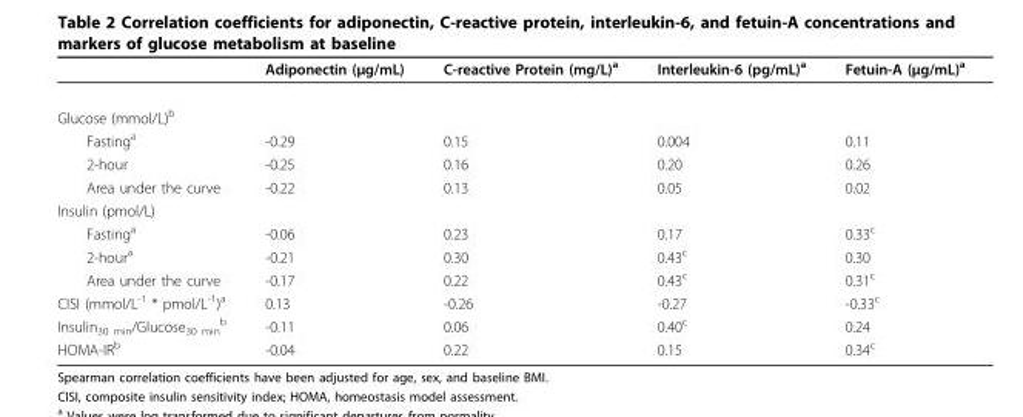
<table><thead><tr><td></td><td>Adiponectin (μg/mL)</td><td>C-reactive Protein (mg/L)<sup>a</sup></td><td>Interleukin-6 (pg/mL)<sup>a</sup></td><td>Fetuin-A (μg/mL)<sup>a</sup></td></tr></thead><tbody><tr><td colspan="5">Glucose (mmol/L)<sup>b</sup></td></tr><tr><td>Fasting<sup>a</sup></td><td>-0.29</td><td>0.15</td><td>0.004</td><td>0.11</td></tr><tr><td>2-hour</td><td>-0.25</td><td>0.16</td><td>0.20</td><td>0.26</td></tr><tr><td>Area under the curve</td><td>-0.22</td><td>0.13</td><td>0.05</td><td>0.02</td></tr><tr><td colspan="5">Insulin (pmol/L)</td></tr><tr><td>Fasting<sup>a</sup></td><td>-0.06</td><td>0.23</td><td>0.17</td><td>0.33<sup>c</sup></td></tr><tr><td>2-hour<sup>a</sup></td><td>-0.21</td><td>0.30</td><td>0.43<sup>c</sup></td><td>0.30</td></tr><tr><td>Area under the curve</td><td>-0.17</td><td>0.22</td><td>0.43<sup>c</sup></td><td>0.31<sup>c</sup></td></tr><tr><td>CISI (mmol/L<sup>-1</sup> * pmol/L<sup>-1</sup>)<sup>a</sup></td><td>0.13</td><td>-0.26</td><td>-0.27</td><td>-0.33<sup>c</sup></td></tr><tr><td>Insulin<sub>30 min</sub>/Glucose<sub>30 min</sub> <sup>b</sup></td><td>-0.11</td><td>0.06</td><td>0.40<sup>c</sup></td><td>0.24</td></tr><tr><td>HOMA-IR<sup>b</sup></td><td>-0.04</td><td>0.22</td><td>0.15</td><td>0.34<sup>c</sup></td></tr></tbody></table>